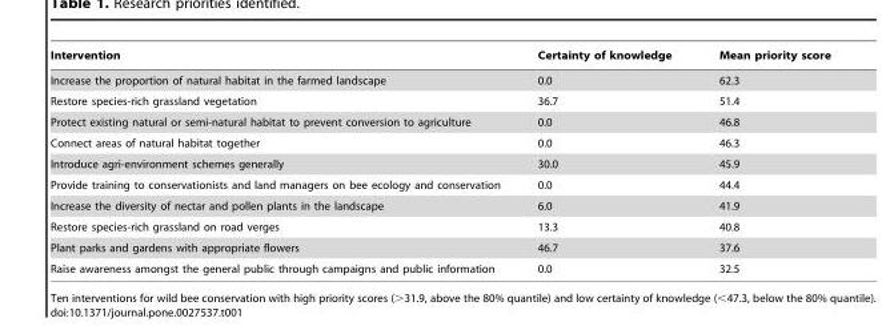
<table><thead><tr><td>Intervention</td><td>Certainty of knowledge</td><td>Mean priority score</td></tr></thead><tbody><tr><td>Increase the proportion of natural habitat in the farmed landscape</td><td>0.0</td><td>62.3</td></tr><tr><td>Restore species-rich grassland vegetation</td><td>36.7</td><td>51.4</td></tr><tr><td>Protect existing natural or semi-natural habitat to prevent conversion to agriculture</td><td>0.0</td><td>46.8</td></tr><tr><td>Connect areas of natural habitat together</td><td>0.0</td><td>46.3</td></tr><tr><td>Introduce agri-environment schemes generally</td><td>30.0</td><td>45.9</td></tr><tr><td>Provide training to conservationists and land managers on bee ecology and conservation</td><td>0.0</td><td>44.4</td></tr><tr><td>Increase the diversity of nectar and pollen plants in the landscape</td><td>6.0</td><td>41.9</td></tr><tr><td>Restore species-rich grassland on road verges</td><td>13.3</td><td>40.8</td></tr><tr><td>Plant parks and gardens with appropriate flowers</td><td>46.7</td><td>37.6</td></tr><tr><td>Raise awareness amongst the general public through campaigns and public information</td><td>0.0</td><td>32.5</td></tr></tbody></table>